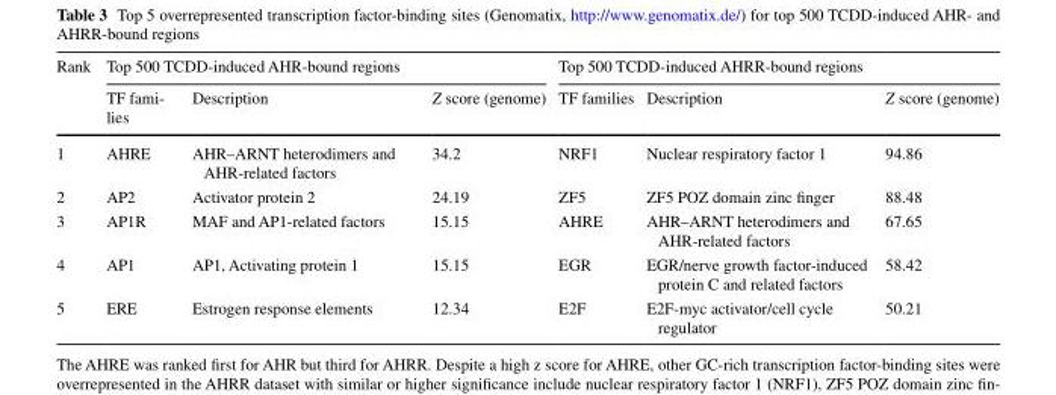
<table><thead><tr><td rowspan="2">Rank</td><td colspan="3">Top 500 TCDD-induced AHR-bound regions</td><td colspan="3">Top 500 TCDD-induced AHRR-bound regions</td></tr><tr><td>TF fami- lies</td><td>Description</td><td>Z score (genome)</td><td>TF families</td><td>Description</td><td>Z score (genome)</td></tr></thead><tbody><tr><td>1</td><td>AHRE</td><td>AHR–ARNT heterodimers and AHR-related factors</td><td>34.2</td><td>NRF1</td><td>Nuclear respiratory factor 1</td><td>94.86</td></tr><tr><td>2</td><td>AP2</td><td>Activator protein 2</td><td>24.19</td><td>ZF5</td><td>ZF5 POZ domain zinc finger</td><td>88.48</td></tr><tr><td>3</td><td>AP1R</td><td>MAF and AP1-related factors</td><td>15.15</td><td>AHRE</td><td>AHR–ARNT heterodimers and AHR-related factors</td><td>67.65</td></tr><tr><td>4</td><td>AP1</td><td>AP1, Activating protein 1</td><td>15.15</td><td>EGR</td><td>EGR/nerve growth factor-induced protein C and related factors</td><td>58.42</td></tr><tr><td>5</td><td>ERE</td><td>Estrogen response elements</td><td>12.34</td><td>E2F</td><td>E2F-myc activator/cell cycle regulator</td><td>50.21</td></tr></tbody></table>